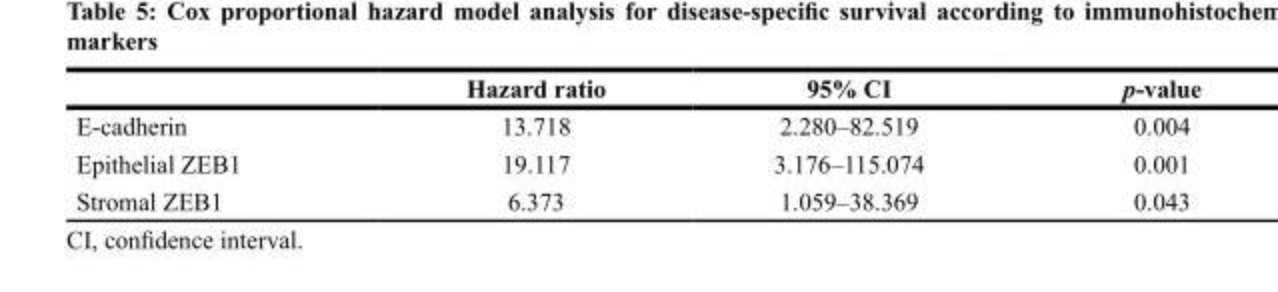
<table><thead><tr><td></td><td>Hazard ratio</td><td>95% CI</td><td>p-value</td></tr></thead><tbody><tr><td>E-cadherin</td><td>13.718</td><td>2.280–82.519</td><td>0.004</td></tr><tr><td>Epithelial ZEB1</td><td>19.117</td><td>3.176–115.074</td><td>0.001</td></tr><tr><td>Stromal ZEB1</td><td>6.373</td><td>1.059–38.369</td><td>0.043</td></tr></tbody></table>